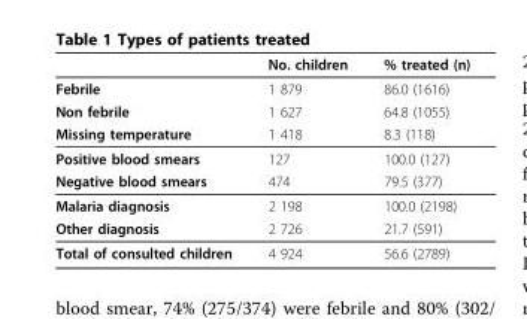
<table><thead><tr><td></td><td>No. children</td><td>% treated (n)</td></tr></thead><tbody><tr><td>Febrile</td><td>1 879</td><td>86.0 (1616)</td></tr><tr><td>Non febrile</td><td>1 627</td><td>64.8 (1055)</td></tr><tr><td>Missing temperature</td><td>1 418</td><td>8.3 (118)</td></tr><tr><td>Positive blood smears</td><td>127</td><td>100.0 (127)</td></tr><tr><td>Negative blood smears</td><td>474</td><td>79.5 (377)</td></tr><tr><td>Malaria diagnosis</td><td>2 198</td><td>100.0 (2198)</td></tr><tr><td>Other diagnosis</td><td>2 726</td><td>21.7 (591)</td></tr><tr><td>Total of consulted children</td><td>4 924</td><td>56.6 (2789)</td></tr></tbody></table>